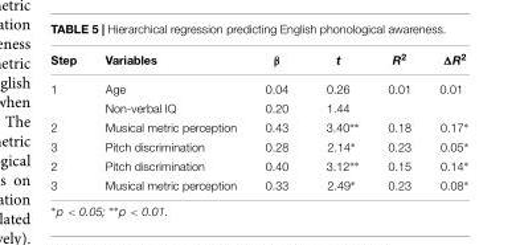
<table><thead><tr><td>Step</td><td>Variables</td><td>β</td><td>t</td><td>R<sup>2</sup></td><td>ΔR<sup>2</sup></td></tr></thead><tbody><tr><td rowspan="2">1</td><td>Age</td><td>0.04</td><td>0.26</td><td>0.01</td><td>0.01</td></tr><tr><td>Non-verbal IQ</td><td>0.20</td><td>1.44</td><td></td><td></td></tr><tr><td>2</td><td>Musical metric perception</td><td>0.43</td><td>3.40∗∗</td><td>0.18</td><td>0.17∗</td></tr><tr><td>3</td><td>Pitch discrimination</td><td>0.28</td><td>2.14∗</td><td>0.23</td><td>0.05∗</td></tr><tr><td>2</td><td>Pitch discrimination</td><td>0.40</td><td>3.12∗∗</td><td>0.15</td><td>0.14∗</td></tr><tr><td>3</td><td>Musical metric perception</td><td>0.33</td><td>2.49∗</td><td>0.23</td><td>0.08∗</td></tr></tbody></table>